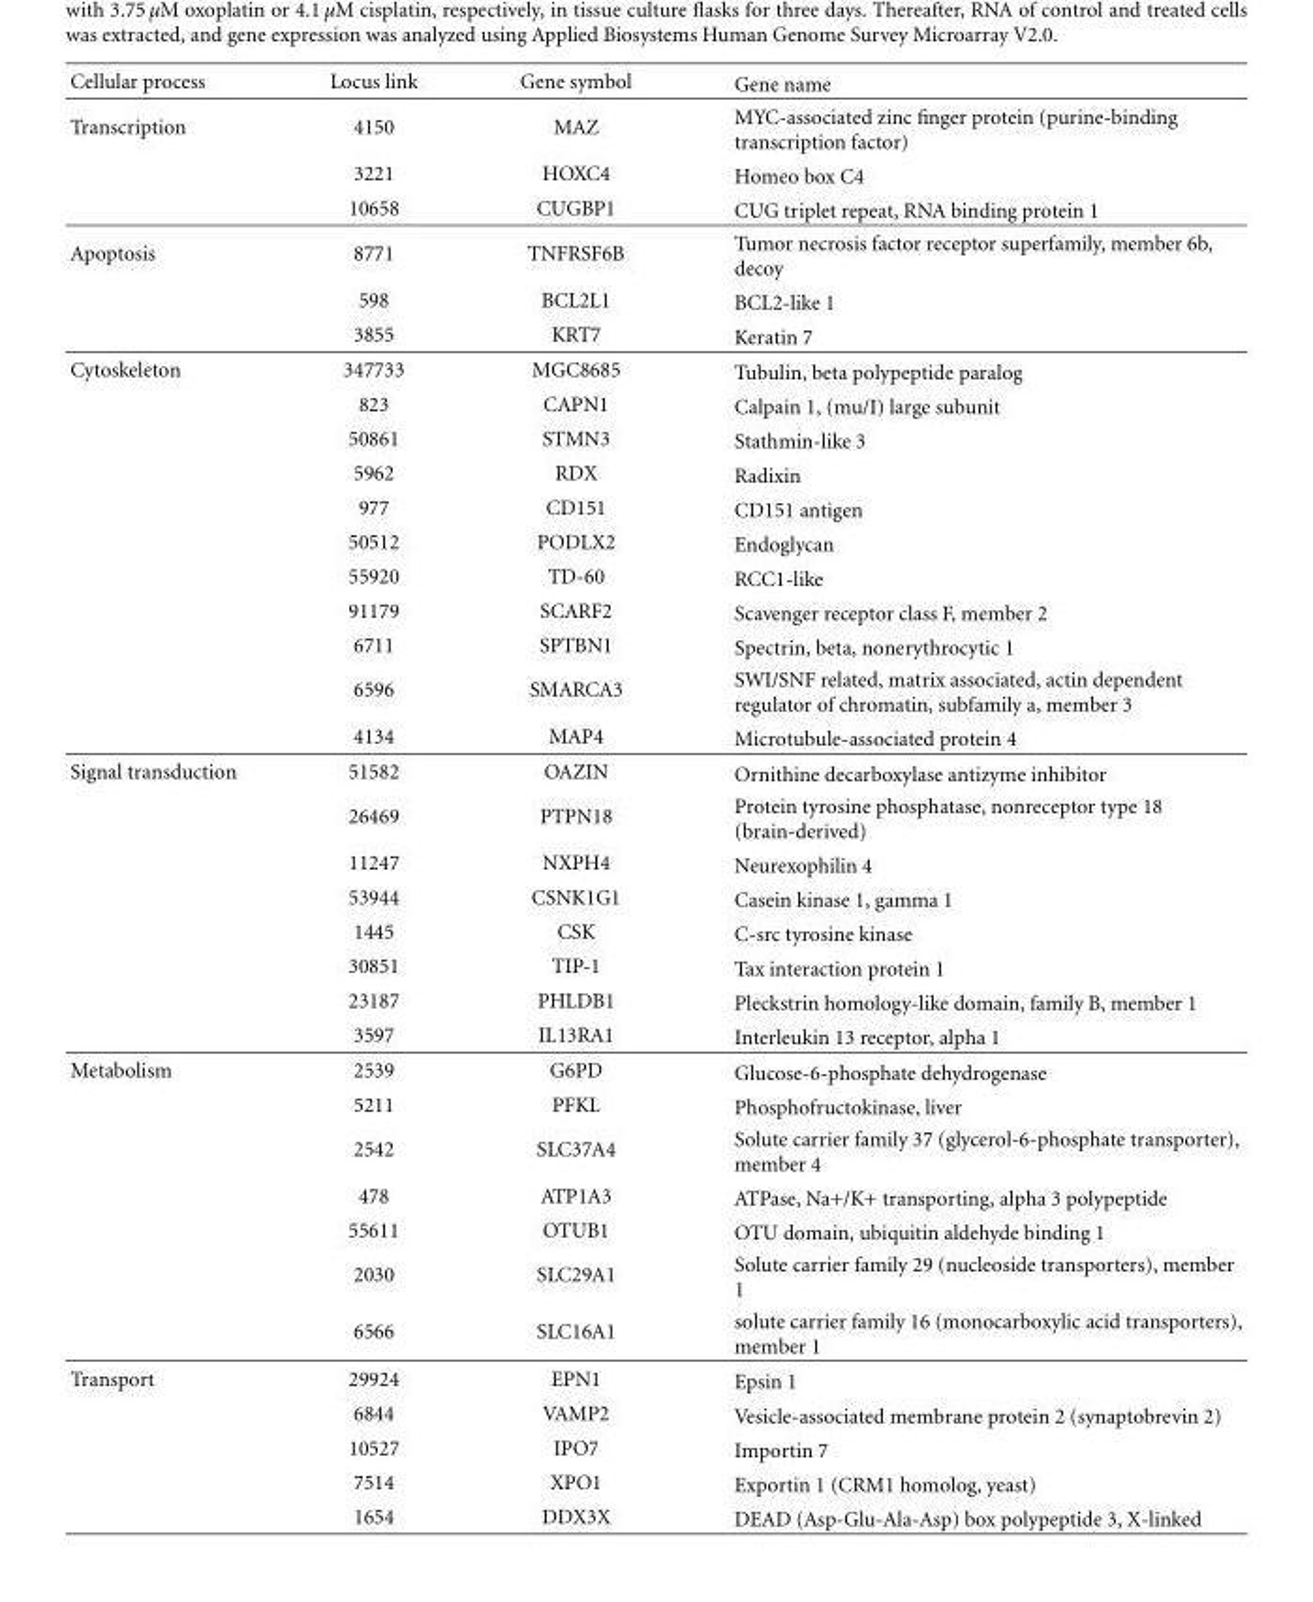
<table><thead><tr><td>Cellular process</td><td>Locus link</td><td>Gene symbol</td><td>Gene name</td></tr></thead><tbody><tr><td rowspan="3">Transcription</td><td>4150</td><td>MAZ</td><td>MYC-associated zinc finger protein (purine-binding transcription factor)</td></tr><tr><td>3221</td><td>HOXC4</td><td>Homeo box C4</td></tr><tr><td>10658</td><td>CUGBP1</td><td>CUG triplet repeat, RNA binding protein 1</td></tr><tr><td rowspan="3">Apoptosis</td><td>8771</td><td>TNFRSF6B</td><td>Tumor necrosis factor receptor superfamily, member 6b, decoy</td></tr><tr><td>598</td><td>BCL2L1</td><td>BCL2-like 1</td></tr><tr><td>3855</td><td>KRT7</td><td>Keratin 7</td></tr><tr><td rowspan="11">Cytoskeleton</td><td>347733</td><td>MGC8685</td><td>Tubulin, beta polypeptide paralog</td></tr><tr><td>823</td><td>CAPN1</td><td>Calpain 1, (mu/I) large subunit</td></tr><tr><td>50861</td><td>STMN3</td><td>Stathmin-like 3</td></tr><tr><td>5962</td><td>RDX</td><td>Radixin</td></tr><tr><td>977</td><td>CD151</td><td>CD151 antigen</td></tr><tr><td>50512</td><td>PODLX2</td><td>Endoglycan</td></tr><tr><td>55920</td><td>TD-60</td><td>RCC1-like</td></tr><tr><td>91179</td><td>SCARF2</td><td>Scavenger receptor class F, member 2</td></tr><tr><td>6711</td><td>SPTBN1</td><td>Spectrin, beta, nonerythrocytic 1</td></tr><tr><td>6596</td><td>SMARCA3</td><td>SWI/SNF related, matrix associated, actin dependent regulator of chromatin, subfamily a, member 3</td></tr><tr><td>4134</td><td>MAP4</td><td>Microtubule-associated protein 4</td></tr><tr><td rowspan="8">Signal transduction</td><td>51582</td><td>OAZIN</td><td>Ornithine decarboxylase antizyme inhibitor</td></tr><tr><td>26469</td><td>PTPN18</td><td>Protein tyrosine phosphatase, nonreceptor type 18 (brain-derived)</td></tr><tr><td>11247</td><td>NXPH4</td><td>Neurexophilin 4</td></tr><tr><td>53944</td><td>CSNK1G1</td><td>Casein kinase 1, gamma 1</td></tr><tr><td>1445</td><td>CSK</td><td>C-src tyrosine kinase</td></tr><tr><td>30851</td><td>TIP-1</td><td>Tax interaction protein 1</td></tr><tr><td>23187</td><td>PHLDB1</td><td>Pleckstrin homology-like domain, family B, member 1</td></tr><tr><td>3597</td><td>IL13RA1</td><td>Interleukin 13 receptor, alpha 1</td></tr><tr><td rowspan="7">Metabolism</td><td>2539</td><td>G6PD</td><td>Glucose-6-phosphate dehydrogenase</td></tr><tr><td>5211</td><td>PFKL</td><td>Phosphofructokinase, liver</td></tr><tr><td>2542</td><td>SLC37A4</td><td>Solute carrier family 37 (glycerol-6-phosphate transporter), member 4</td></tr><tr><td>478</td><td>ATP1A3</td><td>ATPase, Na+/K+ transporting, alpha 3 polypeptide</td></tr><tr><td>55611</td><td>OTUB1</td><td>OTU domain, ubiquitin aldehyde binding 1</td></tr><tr><td>2030</td><td>SLC29A1</td><td>Solute carrier family 29 (nucleoside transporters), member 1</td></tr><tr><td>6566</td><td>SLC16A1</td><td>solute carrier family 16 (monocarboxylic acid transporters), member 1</td></tr><tr><td rowspan="5">Transport</td><td>29924</td><td>EPN1</td><td>Epsin 1</td></tr><tr><td>6844</td><td>VAMP2</td><td>Vesicle-associated membrane protein 2 (synaptobrevin 2)</td></tr><tr><td>10527</td><td>IPO7</td><td>Importin 7</td></tr><tr><td>7514</td><td>XPO1</td><td>Exportin 1 (CRM1 homolog, yeast)</td></tr><tr><td>1654</td><td>DDX3X</td><td>DEAD (Asp-Glu-Ala-Asp) box polypeptide 3, X-linked</td></tr></tbody></table>